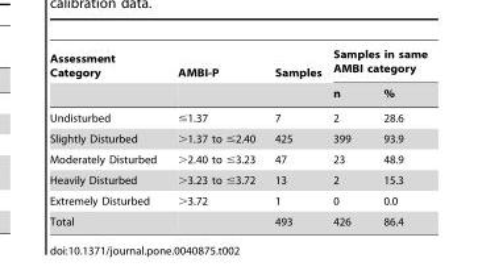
<table><thead><tr><td rowspan="2">Assessment Category</td><td rowspan="2">AMBI-P</td><td rowspan="2">Samples</td><td colspan="2">Samples in same AMBI category</td></tr><tr><td>n</td><td>%</td></tr></thead><tbody><tr><td>Undisturbed</td><td>≤1.37</td><td>7</td><td>2</td><td>28.6</td></tr><tr><td>Slightly Disturbed</td><td>&gt;1.37 to ≤2.40</td><td>425</td><td>399</td><td>93.9</td></tr><tr><td>Moderately Disturbed</td><td>&gt;2.40 to ≤3.23</td><td>47</td><td>23</td><td>48.9</td></tr><tr><td>Heavily Disturbed</td><td>&gt;3.23 to ≤3.72</td><td>13</td><td>2</td><td>15.3</td></tr><tr><td>Extremely Disturbed</td><td>&gt;3.72</td><td>1</td><td>0</td><td>0.0</td></tr><tr><td>Total</td><td></td><td>493</td><td>426</td><td>86.4</td></tr></tbody></table>